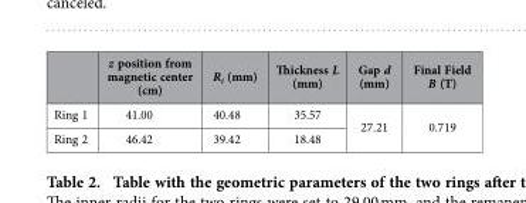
<table><thead><tr><td></td><td>z position from magnetic center (cm)</td><td>R<sub>i</sub> (mm)</td><td>Thickness L (mm)</td><td>Gap d (mm)</td><td>Final Field B (T)</td></tr></thead><tbody><tr><td>Ring 1</td><td>41.00</td><td>40.48</td><td>35.57</td><td rowspan="2">27.21</td><td rowspan="2">0.719</td></tr><tr><td>Ring 2</td><td>46.42</td><td>39.42</td><td>18.48</td></tr></tbody></table>